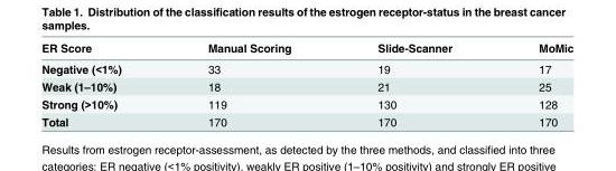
<table><thead><tr><td>ER Score</td><td>Manual Scoring</td><td>Slide-Scanner</td><td>MoMic</td></tr></thead><tbody><tr><td>Negative (&lt;1%)</td><td>33</td><td>19</td><td>17</td></tr><tr><td>Weak (1–10%)</td><td>18</td><td>21</td><td>25</td></tr><tr><td>Strong (&gt;10%)</td><td>119</td><td>130</td><td>128</td></tr><tr><td>Total</td><td>170</td><td>170</td><td>170</td></tr></tbody></table>